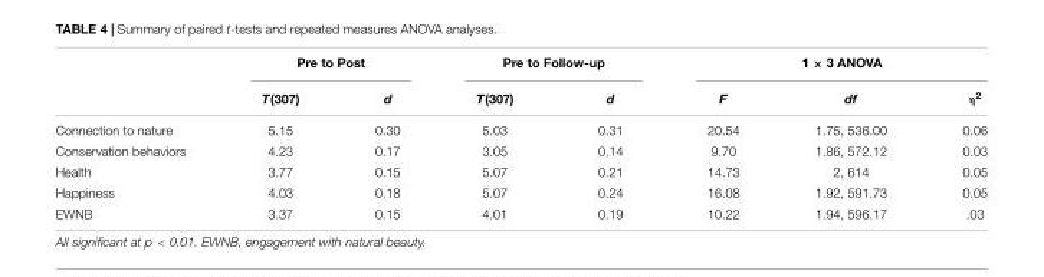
<table><thead><tr><td rowspan="2"></td><td colspan="2">Pre to Post</td><td colspan="2">Pre to Follow-up</td><td colspan="3">1 × 3 ANOVA</td></tr><tr><td>T(307)</td><td>d</td><td>T(307)</td><td>d</td><td>F</td><td>df</td><td>η<sup>2</sup></td></tr></thead><tbody><tr><td>Connection to nature</td><td>5.15</td><td>0.30</td><td>5.03</td><td>0.31</td><td>20.54</td><td>1.75, 536.00</td><td>0.06</td></tr><tr><td>Conservation behaviors</td><td>4.23</td><td>0.17</td><td>3.05</td><td>0.14</td><td>9.70</td><td>1.86, 572.12</td><td>0.03</td></tr><tr><td>Health</td><td>3.77</td><td>0.15</td><td>5.07</td><td>0.21</td><td>14.73</td><td>2, 614</td><td>0.05</td></tr><tr><td>Happiness</td><td>4.03</td><td>0.18</td><td>5.07</td><td>0.24</td><td>16.08</td><td>1.92, 591.73</td><td>0.05</td></tr><tr><td>EWNB</td><td>3.37</td><td>0.15</td><td>4.01</td><td>0.19</td><td>10.22</td><td>1.94, 596.17</td><td>.03</td></tr></tbody></table>